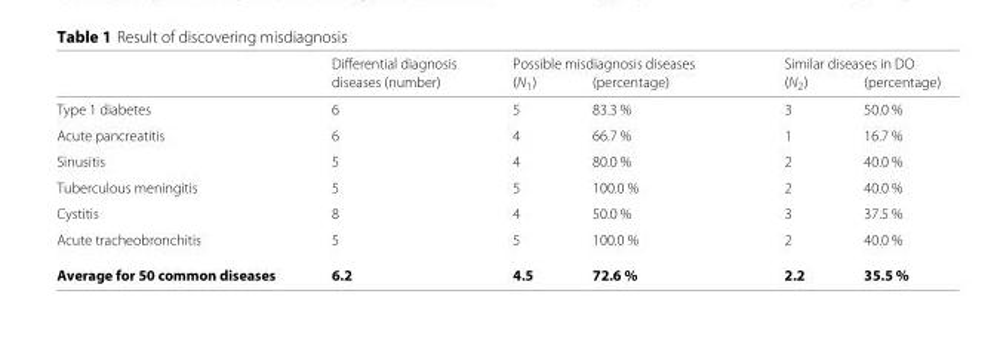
<table><thead><tr><td rowspan="2"></td><td rowspan="2">Differential diagnosis diseases (number)</td><td colspan="2">Possible misdiagnosis diseases</td><td colspan="2">Similar diseases in DO</td></tr><tr><td>(N<sub>1</sub>)</td><td>(percentage)</td><td>(N<sub>2</sub>)</td><td>(percentage)</td></tr></thead><tbody><tr><td>Type 1 diabetes</td><td>6</td><td>5</td><td>83.3 %</td><td>3</td><td>50.0 %</td></tr><tr><td>Acute pancreatitis</td><td>6</td><td>4</td><td>66.7 %</td><td>1</td><td>16.7 %</td></tr><tr><td>Sinusitis</td><td>5</td><td>4</td><td>80.0 %</td><td>2</td><td>40.0 %</td></tr><tr><td>Tuberculous meningitis</td><td>5</td><td>5</td><td>100.0 %</td><td>2</td><td>40.0 %</td></tr><tr><td>Cystitis</td><td>8</td><td>4</td><td>50.0 %</td><td>3</td><td>37.5 %</td></tr><tr><td>Acute tracheobronchitis</td><td>5</td><td>5</td><td>100.0 %</td><td>2</td><td>40.0 %</td></tr><tr><td>Average for 50 common diseases</td><td>6.2</td><td>4.5</td><td>72.6 %</td><td>2.2</td><td>35.5 %</td></tr></tbody></table>